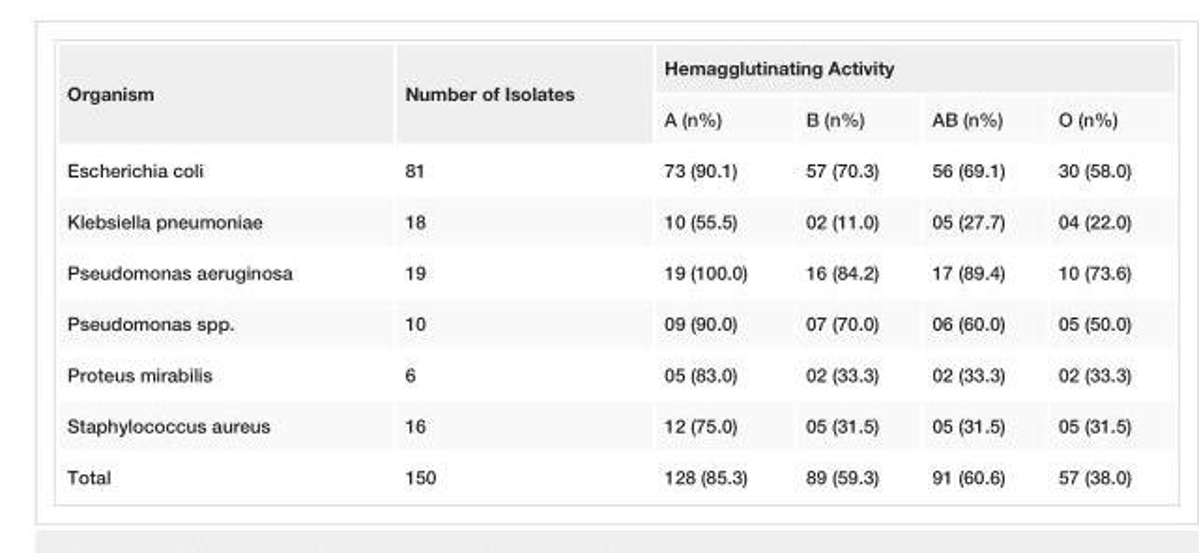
<table><tbody><tr><td rowspan="2">Organism</td><td rowspan="2">Number of Isolates</td><td colspan="4">Hemagglutinating Activity</td></tr><tr><td>A (n%)</td><td>B (n%)</td><td>AB (n%)</td><td>O (n%)</td></tr><tr><td>Escherichia coli</td><td>81</td><td>73 (90.1)</td><td>57 (70.3)</td><td>56 (69.1)</td><td>30 (58.0)</td></tr><tr><td>Klebsiella pneumoniae</td><td>18</td><td>10 (55.5)</td><td>02 (11.0)</td><td>05 (27.7)</td><td>04 (22.0)</td></tr><tr><td>Pseudomonas aeruginosa</td><td>19</td><td>19 (100.0)</td><td>16 (84.2)</td><td>17 (89.4)</td><td>10 (73.6)</td></tr><tr><td>Pseudomonas spp.</td><td>10</td><td>09 (90.0)</td><td>07 (70.0)</td><td>06 (60.0)</td><td>05 (50.0)</td></tr><tr><td>Proteus mirabilis</td><td>6</td><td>05 (83.0)</td><td>02 (33.3)</td><td>02 (33.3)</td><td>02 (33.3)</td></tr><tr><td>Staphylococcus aureus</td><td>16</td><td>12 (75.0)</td><td>05 (31.5)</td><td>05 (31.5)</td><td>05 (31.5)</td></tr><tr><td>Total</td><td>150</td><td>128 (85.3)</td><td>89 (59.3)</td><td>91 (60.6)</td><td>57 (38.0)</td></tr></tbody></table>